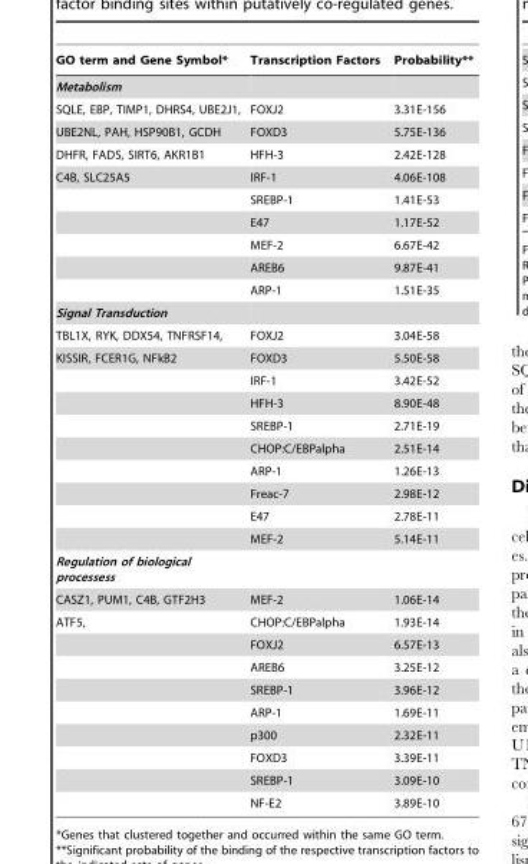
<table><thead><tr><td>GO term and Gene Symbol*</td><td>Transcription Factors</td><td>Probability**</td></tr></thead><tbody><tr><td colspan="3">Metabolism</td></tr><tr><td>SQLE, EBP, TIMP1, DHRS4, UBE2J1,</td><td>FOXJ2</td><td>3.31E-156</td></tr><tr><td>UBE2NL, PAH, HSP90B1, GCDH</td><td>FOXD3</td><td>5.75E-136</td></tr><tr><td>DHFR, FADS, SIRT6, AKR1B1</td><td>HFH-3</td><td>2.42E-128</td></tr><tr><td rowspan="6">C4B, SLC25A5</td><td>IRF-1</td><td>4.06E-108</td></tr><tr><td>SREBP-1</td><td>1.41E-53</td></tr><tr><td>E47</td><td>1.17E-52</td></tr><tr><td>MEF-2</td><td>6.67E-42</td></tr><tr><td>AREB6</td><td>9.87E-41</td></tr><tr><td>ARP-1</td><td>1.51E-35</td></tr><tr><td colspan="3">Signal Transduction</td></tr><tr><td>TBL1X, RYK, DDX54, TNFRSF14,</td><td>FOXJ2</td><td>3.04E-58</td></tr><tr><td rowspan="9">KISSIR, FCER1G, NFkB2</td><td>FOXD3</td><td>5.50E-58</td></tr><tr><td>IRF-1</td><td>3.42E-52</td></tr><tr><td>HFH-3</td><td>8.90E-48</td></tr><tr><td>SREBP-1</td><td>2.71E-19</td></tr><tr><td>CHOP:C/EBPalpha</td><td>2.51E-14</td></tr><tr><td>ARP-1</td><td>1.26E-13</td></tr><tr><td>Freac-7</td><td>2.98E-12</td></tr><tr><td>E47</td><td>2.78E-11</td></tr><tr><td>MEF-2</td><td>5.14E-11</td></tr><tr><td colspan="3">Regulation of biological processess</td></tr><tr><td>CASZ1, PUM1, C4B, GTF2H3</td><td>MEF-2</td><td>1.06E-14</td></tr><tr><td rowspan="9">ATF5,</td><td>CHOP:C/EBPalpha</td><td>1.93E-14</td></tr><tr><td>FOXJ2</td><td>6.57E-13</td></tr><tr><td>AREB6</td><td>3.25E-12</td></tr><tr><td>SREBP-1</td><td>3.96E-12</td></tr><tr><td>ARP-1</td><td>1.69E-11</td></tr><tr><td>p300</td><td>2.32E-11</td></tr><tr><td>FOXD3</td><td>3.39E-11</td></tr><tr><td>SREBP-1</td><td>3.09E-10</td></tr><tr><td>NF-E2</td><td>3.89E-10</td></tr></tbody></table>